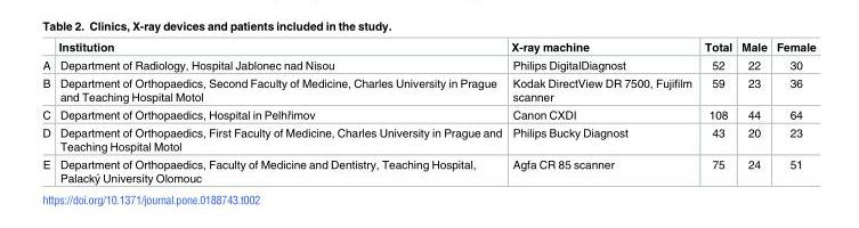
<table><thead><tr><td></td><td>Institution</td><td>X-ray machine</td><td>Total</td><td>Male</td><td>Female</td></tr></thead><tbody><tr><td>A</td><td>Department of Radiology, Hospital Jablonec nad Nisou</td><td>Philips DigitalDiagnost</td><td>52</td><td>22</td><td>30</td></tr><tr><td>B</td><td>Department of Orthopaedics, Second Faculty of Medicine, Charles University in Prague and Teaching Hospital Motol</td><td>Kodak DirectView DR 7500, Fujifilm scanner</td><td>59</td><td>23</td><td>36</td></tr><tr><td>C</td><td>Department of Orthopaedics, Hospital in Pelhřimov</td><td>Canon CXDI</td><td>108</td><td>44</td><td>64</td></tr><tr><td>D</td><td>Department of Orthopaedics, First Faculty of Medicine, Charles University in Prague and Teaching Hospital Motol</td><td>Philips Bucky Diagnost</td><td>43</td><td>20</td><td>23</td></tr><tr><td>E</td><td>Department of Orthopaedics, Faculty of Medicine and Dentistry, Teaching Hospital, Palacky´ University Olomouc</td><td>Agfa CR 85 scanner</td><td>75</td><td>24</td><td>51</td></tr></tbody></table>